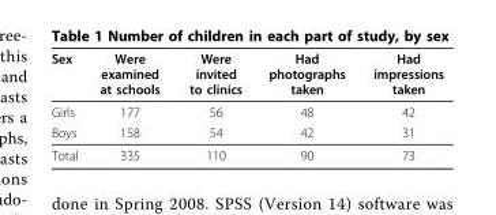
<table><thead><tr><td>Sex</td><td>Were examined at schools</td><td>Were invited to clinics</td><td>Had photographs taken</td><td>Had impressions taken</td></tr></thead><tbody><tr><td>Girls</td><td>177</td><td>56</td><td>48</td><td>42</td></tr><tr><td>Boys</td><td>158</td><td>54</td><td>42</td><td>31</td></tr><tr><td>Total</td><td>335</td><td>110</td><td>90</td><td>73</td></tr></tbody></table>